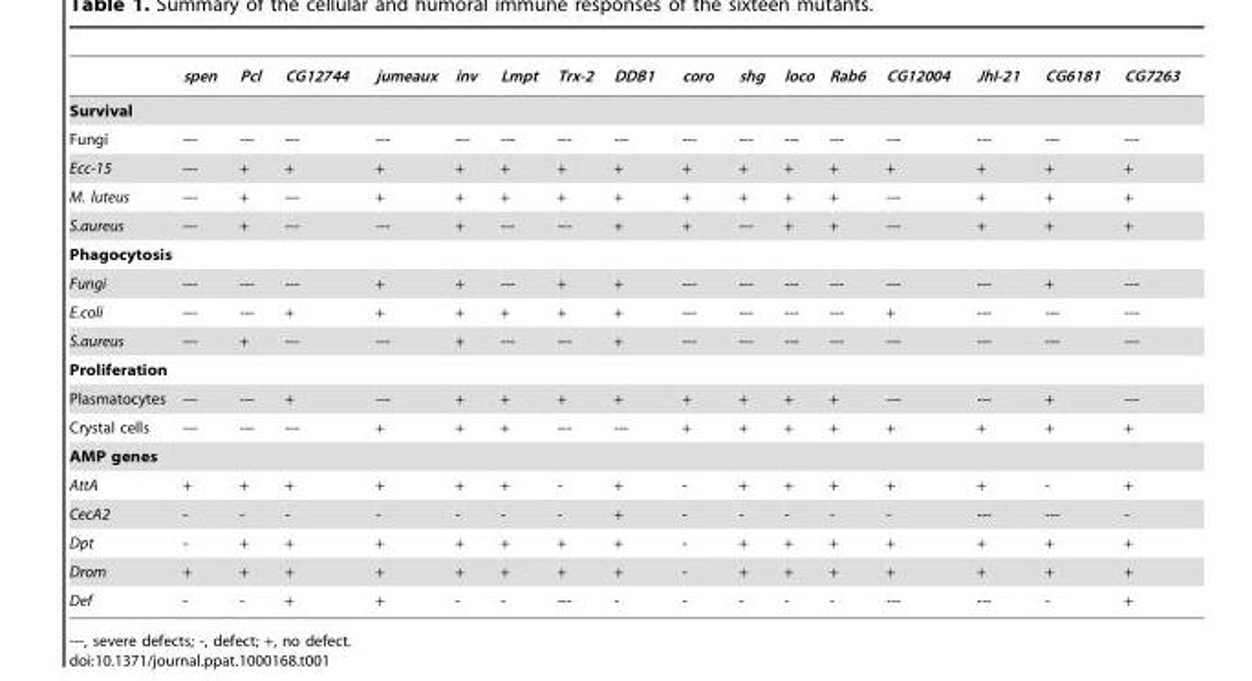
<table><thead><tr><td></td><td>spen</td><td>Pcl</td><td>CG12744</td><td>jumeaux</td><td>inv</td><td>Lmpt</td><td>Trx-2</td><td>DDB1</td><td>coro</td><td>shg</td><td>loco</td><td>Rab6</td><td>CG12004</td><td>JhI-21</td><td>CG6181</td><td>CG7263</td></tr></thead><tbody><tr><td colspan="17">Survival</td></tr><tr><td>Fungi</td><td>---</td><td>---</td><td>---</td><td>---</td><td>---</td><td>---</td><td>---</td><td>---</td><td>---</td><td>---</td><td>---</td><td>---</td><td>---</td><td>---</td><td>---</td><td>---</td></tr><tr><td>Ecc-15</td><td>---</td><td>+</td><td>+</td><td>+</td><td>+</td><td>+</td><td>+</td><td>+</td><td>+</td><td>+</td><td>+</td><td>+</td><td>+</td><td>+</td><td>+</td><td>+</td></tr><tr><td>M. luteus</td><td>---</td><td>+</td><td>---</td><td>+</td><td>+</td><td>+</td><td>+</td><td>+</td><td>+</td><td>+</td><td>+</td><td>+</td><td>---</td><td>+</td><td>+</td><td>+</td></tr><tr><td>S.aureus</td><td>---</td><td>+</td><td>---</td><td>---</td><td>+</td><td>---</td><td>---</td><td>+</td><td>+</td><td>---</td><td>+</td><td>+</td><td>---</td><td>+</td><td>+</td><td>+</td></tr><tr><td colspan="17">Phagocytosis</td></tr><tr><td>Fungi</td><td>---</td><td>---</td><td>---</td><td>+</td><td>+</td><td>---</td><td>+</td><td>+</td><td>---</td><td>---</td><td>---</td><td>---</td><td>---</td><td>---</td><td>+</td><td>---</td></tr><tr><td>E.coli</td><td>---</td><td>---</td><td>+</td><td>+</td><td>+</td><td>+</td><td>+</td><td>+</td><td>---</td><td>---</td><td>---</td><td>---</td><td>+</td><td>---</td><td>---</td><td>---</td></tr><tr><td>S.aureus</td><td>---</td><td>+</td><td>---</td><td>---</td><td>+</td><td>---</td><td>---</td><td>+</td><td>---</td><td>---</td><td>---</td><td>---</td><td>---</td><td>---</td><td>---</td><td>---</td></tr><tr><td colspan="17">Proliferation</td></tr><tr><td>Plasmatocytes</td><td>---</td><td>---</td><td>+</td><td>---</td><td>+</td><td>+</td><td>+</td><td>+</td><td>+</td><td>+</td><td>+</td><td>+</td><td>---</td><td>---</td><td>+</td><td>---</td></tr><tr><td>Crystal cells</td><td>---</td><td>---</td><td>---</td><td>+</td><td>+</td><td>+</td><td>---</td><td>---</td><td>+</td><td>+</td><td>+</td><td>+</td><td>+</td><td>+</td><td>+</td><td>+</td></tr><tr><td colspan="17">AMP genes</td></tr><tr><td>AttA</td><td>+</td><td>+</td><td>+</td><td>+</td><td>+</td><td>+</td><td>-</td><td>+</td><td>-</td><td>+</td><td>+</td><td>+</td><td>+</td><td>+</td><td>-</td><td>+</td></tr><tr><td>CecA2</td><td>-</td><td>-</td><td>-</td><td>-</td><td>-</td><td>-</td><td>-</td><td>+</td><td>-</td><td>-</td><td>-</td><td>-</td><td>-</td><td>---</td><td>---</td><td>-</td></tr><tr><td>Dpt</td><td>-</td><td>+</td><td>+</td><td>+</td><td>+</td><td>+</td><td>+</td><td>+</td><td>-</td><td>+</td><td>+</td><td>+</td><td>+</td><td>+</td><td>+</td><td>+</td></tr><tr><td>Drom</td><td>+</td><td>+</td><td>+</td><td>+</td><td>+</td><td>+</td><td>+</td><td>+</td><td>-</td><td>+</td><td>+</td><td>+</td><td>+</td><td>+</td><td>+</td><td>+</td></tr><tr><td>Def</td><td>-</td><td>-</td><td>+</td><td>+</td><td>-</td><td>-</td><td>---</td><td>-</td><td>-</td><td>-</td><td>-</td><td>-</td><td>---</td><td>---</td><td>-</td><td>+</td></tr></tbody></table>